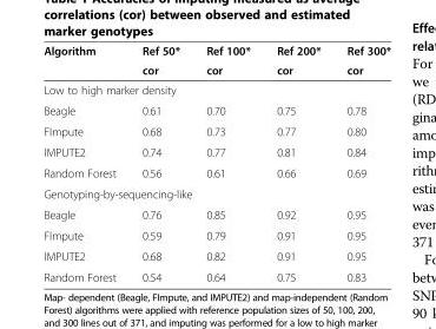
<table><thead><tr><td rowspan="2">Algorithm</td><td rowspan="2">Ref 50* cor</td><td rowspan="2">Ref 100* cor</td><td rowspan="2">Ref 200* cor</td><td rowspan="2">Ref 300* cor</td></tr><tr></tr></thead><tbody><tr><td colspan="5">Low to high marker density</td></tr><tr><td>Beagle</td><td>0.61</td><td>0.70</td><td>0.75</td><td>0.78</td></tr><tr><td>FImpute</td><td>0.68</td><td>0.73</td><td>0.77</td><td>0.80</td></tr><tr><td>IMPUTE2</td><td>0.74</td><td>0.77</td><td>0.81</td><td>0.84</td></tr><tr><td>Random Forest</td><td>0.56</td><td>0.61</td><td>0.66</td><td>0.69</td></tr><tr><td colspan="5">Genotyping-by-sequencing-like</td></tr><tr><td>Beagle</td><td>0.76</td><td>0.85</td><td>0.92</td><td>0.95</td></tr><tr><td>FImpute</td><td>0.59</td><td>0.79</td><td>0.91</td><td>0.95</td></tr><tr><td>IMPUTE2</td><td>0.68</td><td>0.82</td><td>0.91</td><td>0.95</td></tr><tr><td>Random Forest</td><td>0.54</td><td>0.64</td><td>0.75</td><td>0.83</td></tr></tbody></table>